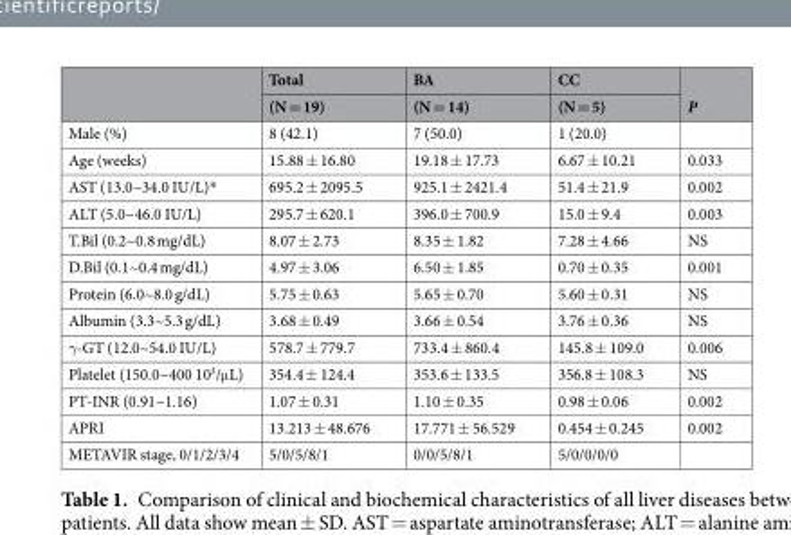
<table><thead><tr><td rowspan="2"></td><td rowspan="2">Total (N = 19)</td><td rowspan="2">BA (N = 14)</td><td rowspan="2">CC (N = 5)</td><td rowspan="2">P</td></tr><tr></tr></thead><tbody><tr><td>Male (%)</td><td>8 (42.1)</td><td>7 (50.0)</td><td>1 (20.0)</td><td></td></tr><tr><td>Age (weeks)</td><td>15.88 ± 16.80</td><td>19.18 ± 17.73</td><td>6.67 ± 10.21</td><td>0.033</td></tr><tr><td>AST (13.0~34.0 IU/L)*</td><td>695.2 ± 2095.5</td><td>925.1 ± 2421.4</td><td>51.4 ± 21.9</td><td>0.002</td></tr><tr><td>ALT (5.0~46.0 IU/L)</td><td>295.7 ± 620.1</td><td>396.0 ± 700.9</td><td>15.0 ± 9.4</td><td>0.003</td></tr><tr><td>T.Bil (0.2~0.8 mg/dL)</td><td>8.07 ± 2.73</td><td>8.35 ± 1.82</td><td>7.28 ± 4.66</td><td>NS</td></tr><tr><td>D.Bil (0.1~0.4 mg/dL)</td><td>4.97 ± 3.06</td><td>6.50 ± 1.85</td><td>0.70 ± 0.35</td><td>0.001</td></tr><tr><td>Protein (6.0~8.0 g/dL)</td><td>5.75 ± 0.63</td><td>5.65 ± 0.70</td><td>5.60 ± 0.31</td><td>NS</td></tr><tr><td>Albumin (3.3~5.3 g/dL)</td><td>3.68 ± 0.49</td><td>3.66 ± 0.54</td><td>3.76 ± 0.36</td><td>NS</td></tr><tr><td>γ-GT (12.0~54.0 IU/L)</td><td>578.7 ± 779.7</td><td>733.4 ± 860.4</td><td>145.8 ± 109.0</td><td>0.006</td></tr><tr><td>Platelet (150.0~400 10<sup>3</sup>/μL)</td><td>354.4 ± 124.4</td><td>353.6 ± 133.5</td><td>356.8 ± 108.3</td><td>NS</td></tr><tr><td>PT-INR (0.91~1.16)</td><td>1.07 ± 0.31</td><td>1.10 ± 0.35</td><td>0.98 ± 0.06</td><td>0.002</td></tr><tr><td>APRI</td><td>13.213 ± 48.676</td><td>17.771 ± 56.529</td><td>0.454 ± 0.245</td><td>0.002</td></tr><tr><td>METAVIR stage, 0/1/2/3/4</td><td>5/0/5/8/1</td><td>0/0/5/8/1</td><td>5/0/0/0/0</td><td></td></tr></tbody></table>